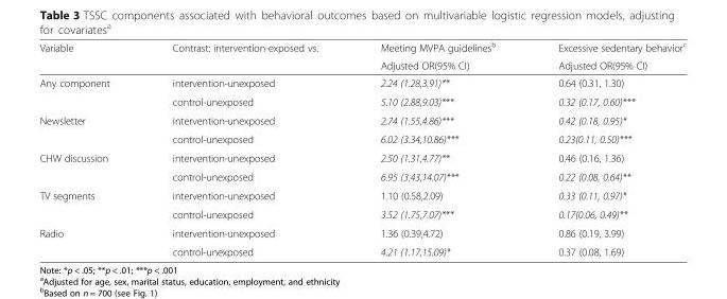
<table><thead><tr><td rowspan="2">Variable</td><td rowspan="2">Contrast: intervention-exposed vs.</td><td rowspan="2">Meeting MVPA guidelines<sup>b</sup> Adjusted OR(95% CI)</td><td rowspan="2">Excessive sedentary behavior<sup>c</sup> Adjusted OR(95% CI)</td></tr><tr></tr></thead><tbody><tr><td rowspan="2">Any component</td><td>intervention-unexposed</td><td>2.24 (1.28,3.91)**</td><td>0.64 (0.31, 1.30)</td></tr><tr><td>control-unexposed</td><td>5.10 (2.88,9.03)***</td><td>0.32 (0.17, 0.60)***</td></tr><tr><td rowspan="2">Newsletter</td><td>intervention-unexposed</td><td>2.74 (1.55,4.86)***</td><td>0.42 (0.18, 0.95)*</td></tr><tr><td>control-unexposed</td><td>6.02 (3.34,10.86)***</td><td>0.23(0.11, 0.50)***</td></tr><tr><td rowspan="2">CHW discussion</td><td>intervention-unexposed</td><td>2.50 (1.31,4.77)**</td><td>0.46 (0.16, 1.36)</td></tr><tr><td>control-unexposed</td><td>6.95 (3.43,14.07)***</td><td>0.22 (0.08, 0.64)**</td></tr><tr><td rowspan="2">TV segments</td><td>intervention-unexposed</td><td>1.10 (0.58,2.09)</td><td>0.33 (0.11, 0.97)*</td></tr><tr><td>control-unexposed</td><td>3.52 (1.75,7.07)***</td><td>0.17(0.06, 0.49)**</td></tr><tr><td rowspan="2">Radio</td><td>intervention-unexposed</td><td>1.36 (0.39,4.72)</td><td>0.86 (0.19, 3.99)</td></tr><tr><td>control-unexposed</td><td>4.21 (1.17,15.09)*</td><td>0.37 (0.08, 1.69)</td></tr></tbody></table>